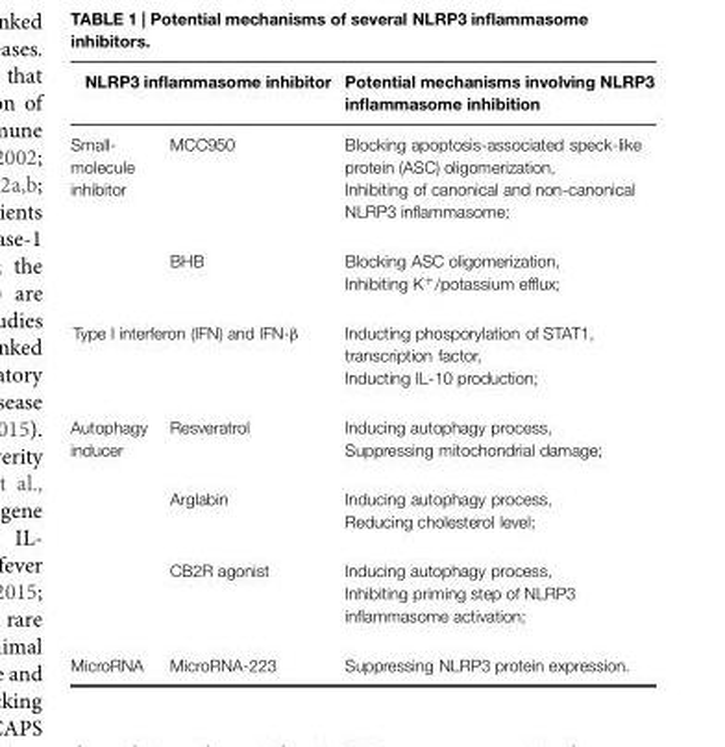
<table><thead><tr><td colspan="2">NLRP3 inflammasome inhibitor</td><td rowspan="2">Potential mechanisms involving NLRP3 inflammasome inhibition Blocking apoptosis-associated speck-like protein (ASC) oligomerization, Inhibiting of canonical and non-canonical NLRP3 inflammasome;</td></tr><tr><td>Small- molecule inhibitor</td><td>MCC950</td></tr></thead><tbody><tr><td></td><td>BHB</td><td>Blocking ASC oligomerization, Inhibiting K<sup>+</sup>/potassium efflux;</td></tr><tr><td colspan="2">Type I interferon (IFN) and IFN-β</td><td>Inducting phosporylation of STAT1, transcription factor, Inducting IL-10 production;</td></tr><tr><td rowspan="3">Autophagy inducer</td><td>Resveratrol</td><td>Inducing autophagy process, Suppressing mitochondrial damage;</td></tr><tr><td>Arglabin</td><td>Inducing autophagy process, Reducing cholesterol level;</td></tr><tr><td>CB2R agonist</td><td>Inducing autophagy process, Inhibiting priming step of NLRP3 inflammasome activation;</td></tr><tr><td>MicroRNA</td><td>MicroRNA-223</td><td>Suppressing NLRP3 protein expression.</td></tr></tbody></table>